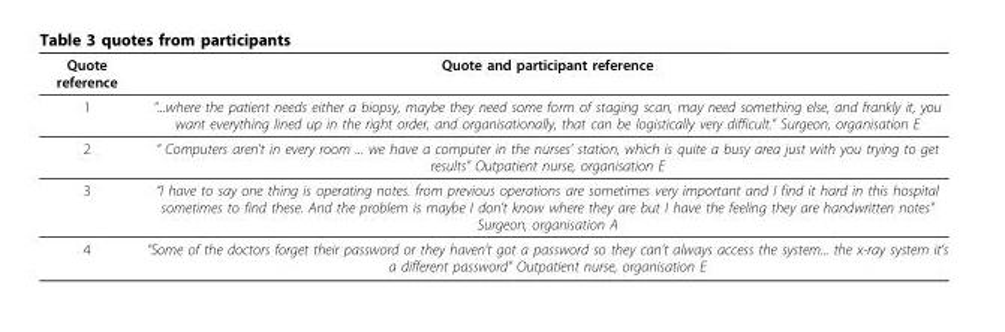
<table><thead><tr><td>Quote reference</td><td>Quote and participant reference</td></tr></thead><tbody><tr><td>1</td><td>“...where the patient needs either a biopsy, maybe they need some form of staging scan, may need something else, and frankly it, you want everything lined up in the right order, and organisationally, that can be logistically very difficult.” Surgeon, organisation E</td></tr><tr><td>2</td><td>“ Computers aren’t in every room ... we have a computer in the nurses’ station, which is quite a busy area just with you trying to get results” Outpatient nurse, organisation E</td></tr><tr><td>3</td><td>“I have to say one thing is operating notes. from previous operations are sometimes very important and I find it hard in this hospital sometimes to find these. And the problem is maybe I don’t know where they are but I have the feeling they are handwritten notes” Surgeon, organisation A</td></tr><tr><td>4</td><td>“Some of the doctors forget their password or they haven’t got a password so they can’t always access the system... the x-ray system it’s a different password” Outpatient nurse, organisation E</td></tr></tbody></table>